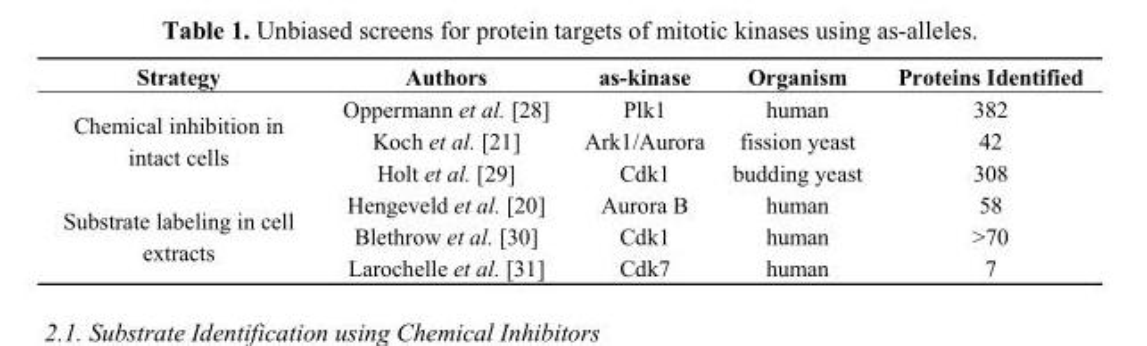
<table><thead><tr><td>Strategy</td><td>Authors</td><td>as-kinase</td><td>Organism</td><td>Proteins Identified</td></tr></thead><tbody><tr><td rowspan="3">Chemical inhibition in intact cells</td><td>Oppermann et al. [28]</td><td>Plk1</td><td>human</td><td>382</td></tr><tr><td>Koch et al. [21]</td><td>Ark1/Aurora</td><td>fission yeast</td><td>42</td></tr><tr><td>Holt et al. [29]</td><td>Cdk1</td><td>budding yeast</td><td>308</td></tr><tr><td rowspan="3">Substrate labeling in cell extracts</td><td>Hengeveld et al. [20]</td><td>Aurora B</td><td>human</td><td>58</td></tr><tr><td>Blethrow et al. [30]</td><td>Cdk1</td><td>human</td><td>&gt;70</td></tr><tr><td>Larochelle et al. [31]</td><td>Cdk7</td><td>human</td><td>7</td></tr></tbody></table>